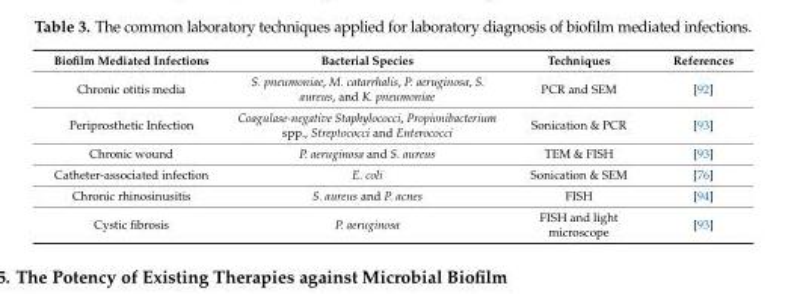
<table><thead><tr><td>Biofilm Mediated Infections</td><td>Bacterial Species</td><td>Techniques</td><td>References</td></tr></thead><tbody><tr><td>Chronic otitis media</td><td>S. pneumoniae, M. catarrhalis, P. aeruginosa, S. aureus, and K. pneumoniae</td><td>PCR and SEM</td><td>[92]</td></tr><tr><td>Periprosthetic Infection</td><td>Coagulase-negative Staphylococci, Propionibacterium spp., Streptococci and Enterococci</td><td>Sonication &amp; PCR</td><td>[93]</td></tr><tr><td>Chronic wound</td><td>P. aeruginosa and S. aureus</td><td>TEM &amp; FISH</td><td>[93]</td></tr><tr><td>Catheter-associated infection</td><td>E. coli</td><td>Sonication &amp; SEM</td><td>[76]</td></tr><tr><td>Chronic rhinosinusitis</td><td>S. aureus and P. acnes</td><td>FISH</td><td>[94]</td></tr><tr><td>Cystic fibrosis</td><td>P. aeruginosa</td><td>FISH and light microscope</td><td>[93]</td></tr></tbody></table>